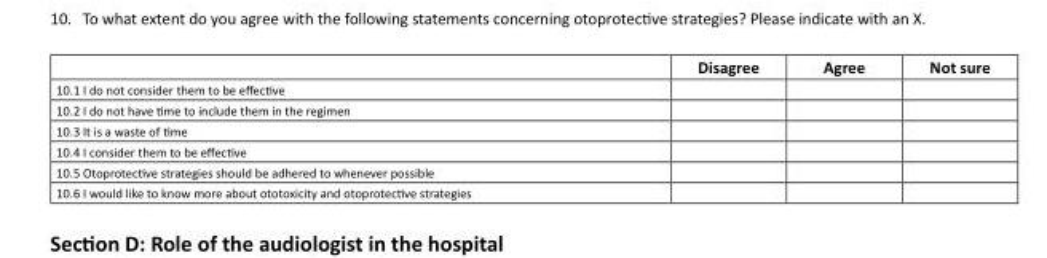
<table><thead><tr><td></td><td>Disagree</td><td>Agree</td><td>Not sure</td></tr></thead><tbody><tr><td colspan="4">10.1 I do not consider them to be effective</td></tr><tr><td colspan="4">10.2 I do not have time to include them in the regimen</td></tr><tr><td colspan="4">10.3 It is a waste of time</td></tr><tr><td colspan="4">10.4 I consider them to be effective</td></tr><tr><td colspan="4">10.5 Otoprotective strategies should be adhered to whenever possible</td></tr><tr><td>10.6 I would like to know more about ototoxicity and otoprotective strategies</td><td></td><td></td><td></td></tr></tbody></table>